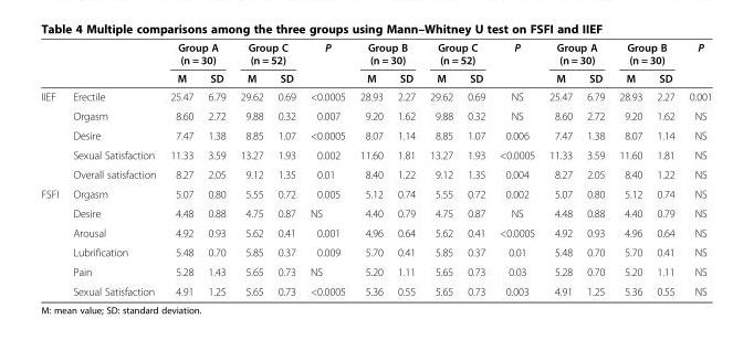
<table><thead><tr><td rowspan="2"></td><td rowspan="2"></td><td colspan="2">Group A (n = 30)</td><td colspan="2">Group C (n = 52)</td><td rowspan="2">P</td><td colspan="2">Group B (n = 30)</td><td colspan="2">Group C (n = 52)</td><td rowspan="2">P</td><td colspan="2">Group A (n = 30)</td><td colspan="2">Group B (n = 30)</td><td rowspan="2">P</td></tr><tr><td>M</td><td>SD</td><td>M</td><td>SD</td><td>M</td><td>SD</td><td>M</td><td>SD</td><td>M</td><td>SD</td><td>M</td><td>SD</td></tr></thead><tbody><tr><td rowspan="5">IIEF</td><td>Erectile</td><td>25.47</td><td>6.79</td><td>29.62</td><td>0.69</td><td>&lt;0.0005</td><td>28.93</td><td>2.27</td><td>29.62</td><td>0.69</td><td>NS</td><td>25.47</td><td>6.79</td><td>28.93</td><td>2.27</td><td>0.001</td></tr><tr><td>Orgasm</td><td>8.60</td><td>2.72</td><td>9.88</td><td>0.32</td><td>0.007</td><td>9.20</td><td>1.62</td><td>9.88</td><td>0.32</td><td>NS</td><td>8.60</td><td>2.72</td><td>9.20</td><td>1.62</td><td>NS</td></tr><tr><td>Desire</td><td>7.47</td><td>1.38</td><td>8.85</td><td>1.07</td><td>&lt;0.0005</td><td>8.07</td><td>1.14</td><td>8.85</td><td>1.07</td><td>0.006</td><td>7.47</td><td>1.38</td><td>8.07</td><td>1.14</td><td>NS</td></tr><tr><td>Sexual Satisfaction</td><td>11.33</td><td>3.59</td><td>13.27</td><td>1.93</td><td>0.002</td><td>11.60</td><td>1.81</td><td>13.27</td><td>1.93</td><td>&lt;0.0005</td><td>11.33</td><td>3.59</td><td>11.60</td><td>1.81</td><td>NS</td></tr><tr><td>Overall satisfaction</td><td>8.27</td><td>2.05</td><td>9.12</td><td>1.35</td><td>0.01</td><td>8.40</td><td>1.22</td><td>9.12</td><td>1.35</td><td>0.004</td><td>8.27</td><td>2.05</td><td>8.40</td><td>1.22</td><td>NS</td></tr><tr><td rowspan="6">FSFI</td><td>Orgasm</td><td>5.07</td><td>0.80</td><td>5.55</td><td>0.72</td><td>0.005</td><td>5.12</td><td>0.74</td><td>5.55</td><td>0.72</td><td>0.002</td><td>5.07</td><td>0.80</td><td>5.12</td><td>0.74</td><td>NS</td></tr><tr><td>Desire</td><td>4.48</td><td>0.88</td><td>4.75</td><td>0.87</td><td>NS</td><td>4.40</td><td>0.79</td><td>4.75</td><td>0.87</td><td>NS</td><td>4.48</td><td>0.88</td><td>4.40</td><td>0.79</td><td>NS</td></tr><tr><td>Arousal</td><td>4.92</td><td>0.93</td><td>5.62</td><td>0.41</td><td>0.001</td><td>4.96</td><td>0.64</td><td>5.62</td><td>0.41</td><td>&lt;0.0005</td><td>4.92</td><td>0.93</td><td>4.96</td><td>0.64</td><td>NS</td></tr><tr><td>Lubrification</td><td>5.48</td><td>0.70</td><td>5.85</td><td>0.37</td><td>0.009</td><td>5.70</td><td>0.41</td><td>5.85</td><td>0.37</td><td>0.01</td><td>5.48</td><td>0.70</td><td>5.70</td><td>0.41</td><td>NS</td></tr><tr><td>Pain</td><td>5.28</td><td>1.43</td><td>5.65</td><td>0.73</td><td>NS</td><td>5.20</td><td>1.11</td><td>5.65</td><td>0.73</td><td>0.03</td><td>5.28</td><td>0.70</td><td>5.20</td><td>1.11</td><td>NS</td></tr><tr><td>Sexual Satisfaction</td><td>4.91</td><td>1.25</td><td>5.65</td><td>0.73</td><td>&lt;0.0005</td><td>5.36</td><td>0.55</td><td>5.65</td><td>0.73</td><td>0.003</td><td>4.91</td><td>1.25</td><td>5.36</td><td>0.55</td><td>NS</td></tr></tbody></table>